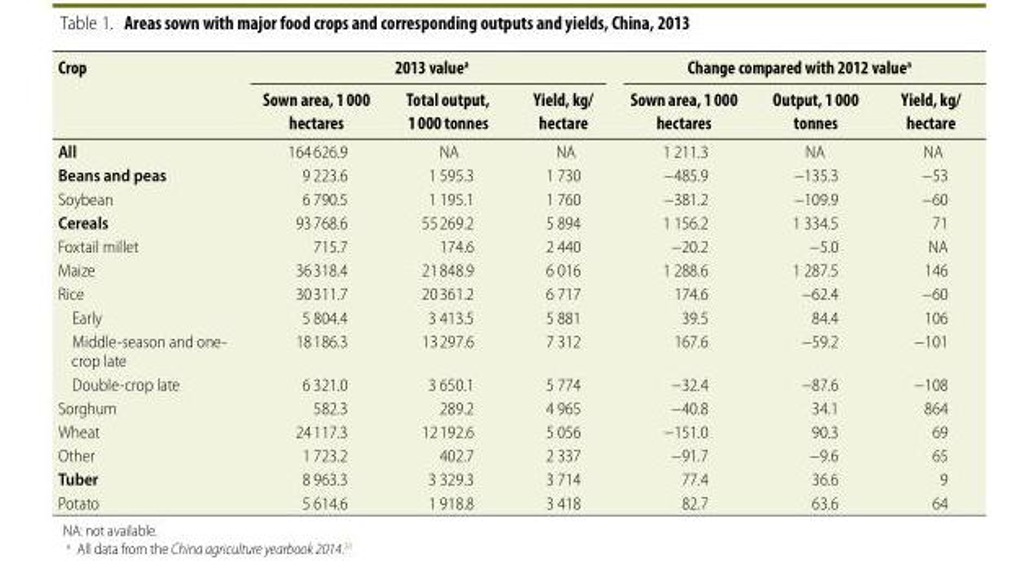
<table><thead><tr><td rowspan="2">Crop</td><td colspan="3">2013 value<sup>a</sup></td><td colspan="3">Change compared with 2012 value<sup>a</sup></td></tr><tr><td>Sown area, 1 000 hectares</td><td>Total output, 1 000 tonnes</td><td>Yield, kg/ hectare</td><td>Sown area, 1 000 hectares</td><td>Output, 1 000 tonnes</td><td>Yield, kg/ hectare</td></tr></thead><tbody><tr><td>All</td><td>164 626.9</td><td>NA</td><td>NA</td><td>1 211.3</td><td>NA</td><td>NA</td></tr><tr><td>Beans and peas</td><td>9 223.6</td><td>1 595.3</td><td>1 730</td><td>−485.9</td><td>−135.3</td><td>−53</td></tr><tr><td>Soybean</td><td>6 790.5</td><td>1 195.1</td><td>1 760</td><td>−381.2</td><td>−109.9</td><td>−60</td></tr><tr><td>Cereals</td><td>93 768.6</td><td>55 269.2</td><td>5 894</td><td>1 156.2</td><td>1 334.5</td><td>71</td></tr><tr><td>Foxtail millet</td><td>715.7</td><td>174.6</td><td>2 440</td><td>−20.2</td><td>−5.0</td><td>NA</td></tr><tr><td>Maize</td><td>36 318.4</td><td>21 848.9</td><td>6 016</td><td>1 288.6</td><td>1 287.5</td><td>146</td></tr><tr><td>Rice</td><td>30 311.7</td><td>20 361.2</td><td>6 717</td><td>174.6</td><td>−62.4</td><td>−60</td></tr><tr><td>Early</td><td>5 804.4</td><td>3 413.5</td><td>5 881</td><td>39.5</td><td>84.4</td><td>106</td></tr><tr><td>Middle-season and one- crop late</td><td>18 186.3</td><td>13 297.6</td><td>7 312</td><td>167.6</td><td>−59.2</td><td>−101</td></tr><tr><td>Double-crop late</td><td>6 321.0</td><td>3 650.1</td><td>5 774</td><td>−32.4</td><td>−87.6</td><td>−108</td></tr><tr><td>Sorghum</td><td>582.3</td><td>289.2</td><td>4 965</td><td>−40.8</td><td>34.1</td><td>864</td></tr><tr><td>Wheat</td><td>24 117.3</td><td>12 192.6</td><td>5 056</td><td>−151.0</td><td>90.3</td><td>69</td></tr><tr><td>Other</td><td>1 723.2</td><td>402.7</td><td>2 337</td><td>−91.7</td><td>−9.6</td><td>65</td></tr><tr><td>Tuber</td><td>8 963.3</td><td>3 329.3</td><td>3 714</td><td>77.4</td><td>36.6</td><td>9</td></tr><tr><td>Potato</td><td>5 614.6</td><td>1 918.8</td><td>3 418</td><td>82.7</td><td>63.6</td><td>64</td></tr></tbody></table>